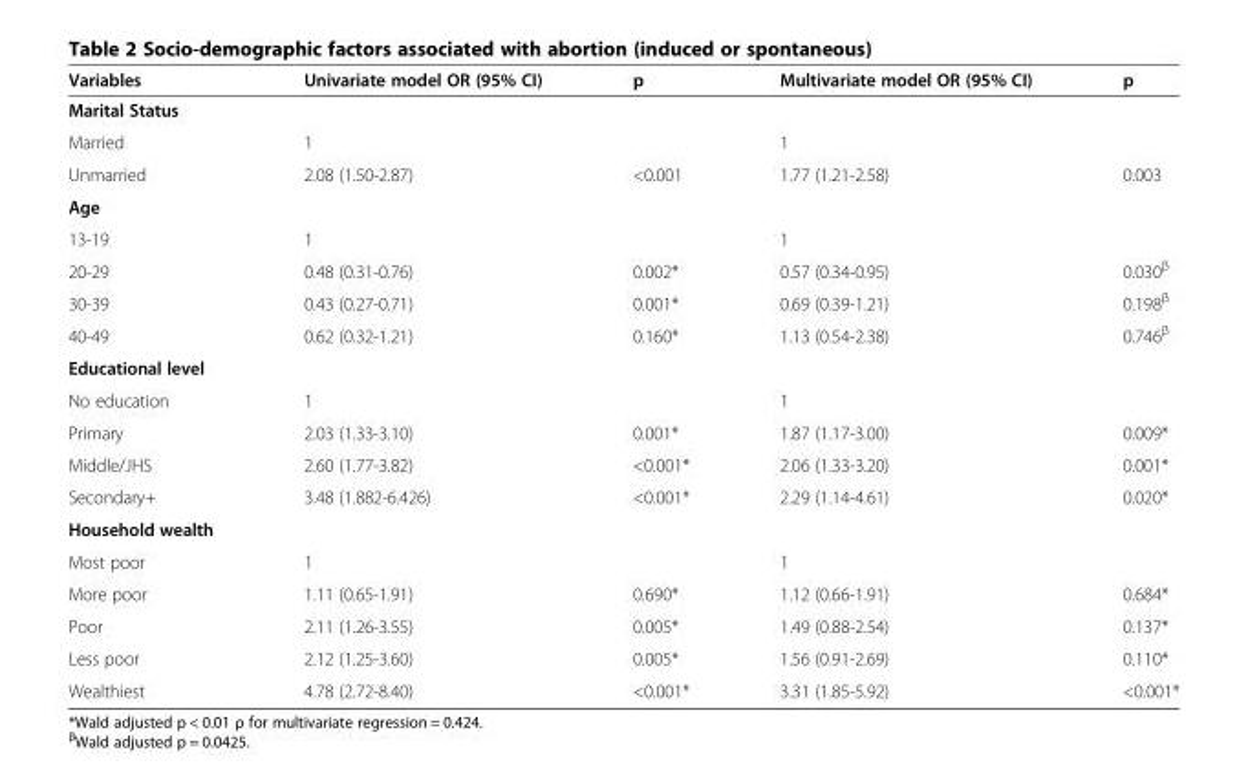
<table><thead><tr><td>Variables</td><td>Univariate model OR (95% CI)</td><td>p</td><td>Multivariate model OR (95% CI)</td><td>p</td></tr></thead><tbody><tr><td colspan="5">Marital Status</td></tr><tr><td>Married</td><td>1</td><td></td><td>1</td><td></td></tr><tr><td>Unmarried</td><td>2.08 (1.50-2.87)</td><td>&lt;0.001</td><td>1.77 (1.21-2.58)</td><td>0.003</td></tr><tr><td colspan="5">Age</td></tr><tr><td>13-19</td><td>1</td><td></td><td>1</td><td></td></tr><tr><td>20-29</td><td>0.48 (0.31-0.76)</td><td>0.002*</td><td>0.57 (0.34-0.95)</td><td>0.030<sup>β</sup></td></tr><tr><td>30-39</td><td>0.43 (0.27-0.71)</td><td>0.001*</td><td>0.69 (0.39-1.21)</td><td>0.198<sup>β</sup></td></tr><tr><td>40-49</td><td>0.62 (0.32-1.21)</td><td>0.160*</td><td>1.13 (0.54-2.38)</td><td>0.746<sup>β</sup></td></tr><tr><td colspan="5">Educational level</td></tr><tr><td>No education</td><td>1</td><td></td><td>1</td><td></td></tr><tr><td>Primary</td><td>2.03 (1.33-3.10)</td><td>0.001*</td><td>1.87 (1.17-3.00)</td><td>0.009*</td></tr><tr><td>Middle/JHS</td><td>2.60 (1.77-3.82)</td><td>&lt;0.001*</td><td>2.06 (1.33-3.20)</td><td>0.001*</td></tr><tr><td>Secondary+</td><td>3.48 (1.882-6.426)</td><td>&lt;0.001*</td><td>2.29 (1.14-4.61)</td><td>0.020*</td></tr><tr><td colspan="5">Household wealth</td></tr><tr><td>Most poor</td><td>1</td><td></td><td>1</td><td></td></tr><tr><td>More poor</td><td>1.11 (0.65-1.91)</td><td>0.690*</td><td>1.12 (0.66-1.91)</td><td>0.684*</td></tr><tr><td>Poor</td><td>2.11 (1.26-3.55)</td><td>0.005*</td><td>1.49 (0.88-2.54)</td><td>0.137*</td></tr><tr><td>Less poor</td><td>2.12 (1.25-3.60)</td><td>0.005*</td><td>1.56 (0.91-2.69)</td><td>0.110*</td></tr><tr><td>Wealthiest</td><td>4.78 (2.72-8.40)</td><td>&lt;0.001*</td><td>3.31 (1.85-5.92)</td><td>&lt;0.001*</td></tr></tbody></table>